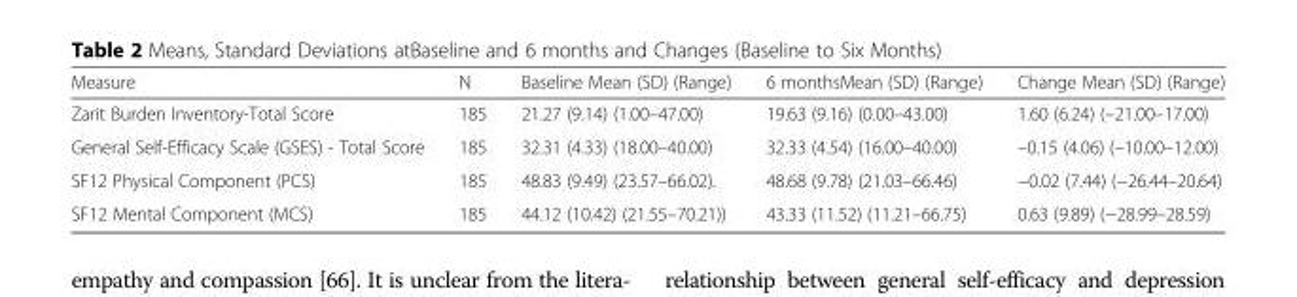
<table><thead><tr><td>Measure</td><td>N</td><td>Baseline Mean (SD) (Range)</td><td>6 monthsMean (SD) (Range)</td><td>Change Mean (SD) (Range)</td></tr></thead><tbody><tr><td>Zarit Burden Inventory-Total Score</td><td>185</td><td>21.27 (9.14) (1.00–47.00)</td><td>19.63 (9.16) (0.00–43.00)</td><td>1.60 (6.24) (–21.00–17.00)</td></tr><tr><td>General Self-Efficacy Scale (GSES) - Total Score</td><td>185</td><td>32.31 (4.33) (18.00–40.00)</td><td>32.33 (4.54) (16.00–40.00)</td><td>–0.15 (4.06) (–10.00–12.00)</td></tr><tr><td>SF12 Physical Component (PCS)</td><td>185</td><td>48.83 (9.49) (23.57–66.02).</td><td>48.68 (9.78) (21.03–66.46)</td><td>−0.02 (7.44) (−26.44–20.64)</td></tr><tr><td>SF12 Mental Component (MCS)</td><td>185</td><td>44.12 (10.42) (21.55–70.21))</td><td>43.33 (11.52) (11.21–66.75)</td><td>0.63 (9.89) (−28.99–28.59)</td></tr></tbody></table>